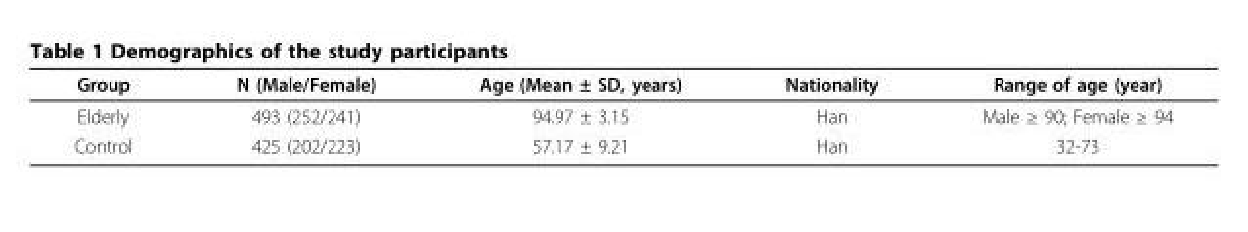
<table><thead><tr><td>Group</td><td>N (Male/Female)</td><td>Age (Mean ± SD, years)</td><td>Nationality</td><td>Range of age (year)</td></tr></thead><tbody><tr><td>Elderly</td><td>493 (252/241)</td><td>94.97 ± 3.15</td><td>Han</td><td>Male ≥ 90; Female ≥ 94</td></tr><tr><td>Control</td><td>425 (202/223)</td><td>57.17 ± 9.21</td><td>Han</td><td>32-73</td></tr></tbody></table>